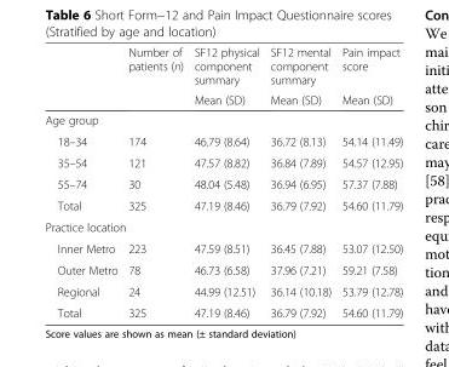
<table><thead><tr><td rowspan="2"></td><td rowspan="2">Number of patients (n)</td><td rowspan="2">SF12 physical component summary Mean (SD)</td><td rowspan="2">SF12 mental component summary Mean (SD)</td><td rowspan="2">Pain impact score Mean (SD)</td></tr><tr></tr></thead><tbody><tr><td colspan="5">Age group</td></tr><tr><td>18–34</td><td>174</td><td>46.79 (8.64)</td><td>36.72 (8.13)</td><td>54.14 (11.49)</td></tr><tr><td>35–54</td><td>121</td><td>47.57 (8.82)</td><td>36.84 (7.89)</td><td>54.57 (12.95)</td></tr><tr><td>55–74</td><td>30</td><td>48.04 (5.48)</td><td>36.94 (6.95)</td><td>57.37 (7.88)</td></tr><tr><td>Total</td><td>325</td><td>47.19 (8.46)</td><td>36.79 (7.92)</td><td>54.60 (11.79)</td></tr><tr><td colspan="5">Practice location</td></tr><tr><td>Inner Metro</td><td>223</td><td>47.59 (8.51)</td><td>36.45 (7.88)</td><td>53.07 (12.50)</td></tr><tr><td>Outer Metro</td><td>78</td><td>46.73 (6.58)</td><td>37.96 (7.21)</td><td>59.21 (7.58)</td></tr><tr><td>Regional</td><td>24</td><td>44.99 (12.51)</td><td>36.14 (10.18)</td><td>53.79 (12.78)</td></tr><tr><td>Total</td><td>325</td><td>47.19 (8.46)</td><td>36.79 (7.92)</td><td>54.60 (11.79)</td></tr></tbody></table>